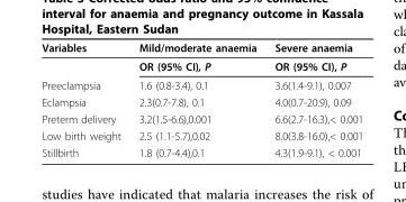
<table><thead><tr><td>Variables</td><td>Mild/moderate anaemia</td><td>Severe anaemia</td></tr></thead><tbody><tr><td></td><td>OR (95% CI), P</td><td>OR (95% CI), P</td></tr><tr><td>Preeclampsia</td><td>1.6 (0.8-3.4), 0.1</td><td>3.6(1.4-9.1), 0.007</td></tr><tr><td>Eclampsia</td><td>2.3(0.7-7.8), 0.1</td><td>4.0(0.7-20.9), 0.09</td></tr><tr><td>Preterm delivery</td><td>3.2(1.5-6.6),0.001</td><td>6.6(2.7-16.3),&lt; 0.001</td></tr><tr><td>Low birth weight</td><td>2.5 (1.1-5.7),0.02</td><td>8.0(3.8-16.0),&lt; 0.001</td></tr><tr><td>Stillbirth</td><td>1.8 (0.7-4.4),0.1</td><td>4.3(1.9-9.1), &lt; 0.001</td></tr></tbody></table>